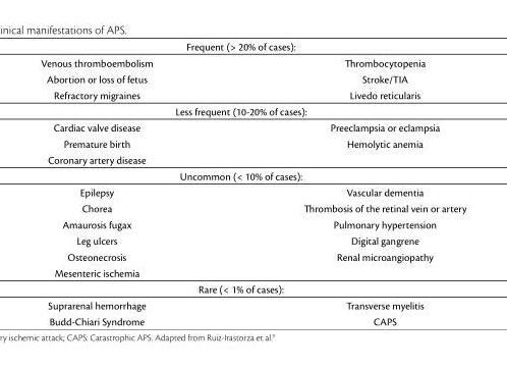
<table><thead><tr><td colspan="2">Frequent (&gt; 20% of cases):</td></tr><tr><td>Venous thromboembolism</td><td>Thrombocytopenia</td></tr></thead><tbody><tr><td>Abortion or loss of fetus</td><td>Stroke/TIA</td></tr><tr><td>Refractory migraines</td><td>Livedo reticularis</td></tr><tr><td colspan="2">Less frequent (10-20% of cases):</td></tr><tr><td>Cardiac valve disease</td><td>Preeclampsia or eclampsia</td></tr><tr><td>Premature birth</td><td>Hemolytic anemia</td></tr><tr><td colspan="2">Coronary artery disease</td></tr><tr><td colspan="2">Uncommon (&lt; 10% of cases):</td></tr><tr><td>Epilepsy</td><td>Vascular dementia</td></tr><tr><td>Chorea</td><td>Thrombosis of the retinal vein or artery</td></tr><tr><td>Amaurosis fugax</td><td>Pulmonary hypertension</td></tr><tr><td>Leg ulcers</td><td>Digital gangrene</td></tr><tr><td>Osteonecrosis</td><td>Renal microangiopathy</td></tr><tr><td colspan="2">Mesenteric ischemia</td></tr><tr><td colspan="2">Rare (&lt; 1% of cases):</td></tr><tr><td>Suprarenal hemorrhage</td><td>Transverse myelitis</td></tr><tr><td>Budd-Chiari Syndrome</td><td>CAPS</td></tr></tbody></table>